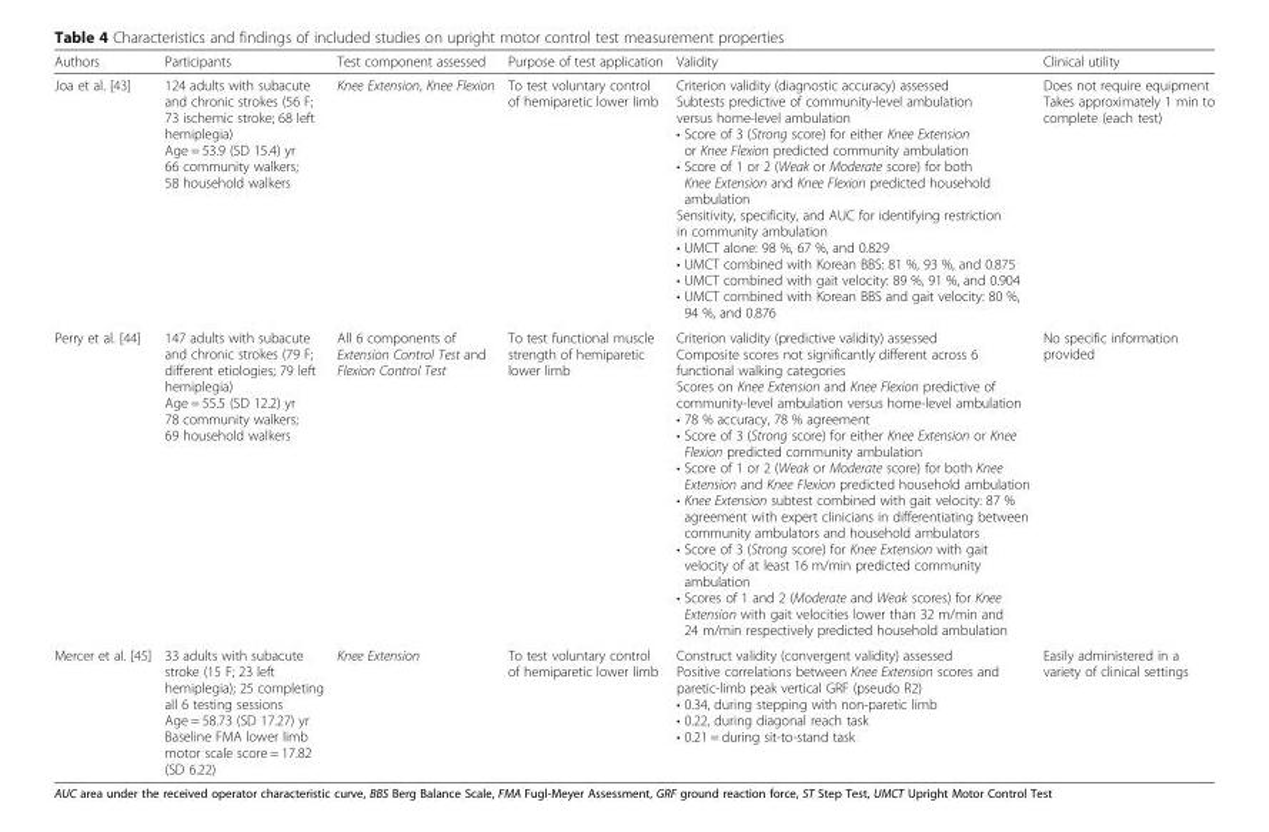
<table><thead><tr><td>Authors</td><td>Participants</td><td>Test component assessed</td><td>Purpose of test application</td><td>Validity</td><td>Clinical utility</td></tr></thead><tbody><tr><td>Joa et al. [43]</td><td>124 adults with subacute and chronic strokes (56 F; 73 ischemic stroke; 68 left hemiplegia) Age = 53.9 (SD 15.4) yr 66 community walkers; 58 household walkers</td><td>Knee Extension, Knee Flexion</td><td>To test voluntary control of hemiparetic lower limb</td><td>Criterion validity (diagnostic accuracy) assessed Subtests predictive of community-level ambulation versus home-level ambulation • Score of 3 (Strong score) for either Knee Extension or Knee Flexion predicted community ambulation • Score of 1 or 2 (Weak or Moderate score) for both Knee Extension and Knee Flexion predicted household ambulation Sensitivity, specificity, and AUC for identifying restriction in community ambulation • UMCT alone: 98 %, 67 %, and 0.829 • UMCT combined with Korean BBS: 81 %, 93 %, and 0.875 • UMCT combined with gait velocity: 89 %, 91 %, and 0.904 • UMCT combined with Korean BBS and gait velocity: 80 %, 94 %, and 0.876</td><td>Does not require equipment Takes approximately 1 min to complete (each test)</td></tr><tr><td>Perry et al. [44]</td><td>147 adults with subacute and chronic strokes (79 F; different etiologies; 79 left hemiplegia) Age = 55.5 (SD 12.2) yr 78 community walkers; 69 household walkers</td><td>All 6 components of Extension Control Test and Flexion Control Test</td><td>To test functional muscle strength of hemiparetic lower limb</td><td>Criterion validity (predictive validity) assessed Composite scores not significantly different across 6 functional walking categories Scores on Knee Extension and Knee Flexion predictive of community-level ambulation versus home-level ambulation • 78 % accuracy, 78 % agreement • Score of 3 (Strong score) for either Knee Extension or Knee Flexion predicted community ambulation • Score of 1 or 2 (Weak or Moderate score) for both Knee Extension and Knee Flexion predicted household ambulation • Knee Extension subtest combined with gait velocity: 87 % agreement with expert clinicians in differentiating between community ambulators and household ambulators • Score of 3 (Strong score) for Knee Extension with gait velocity of at least 16 m/min predicted community ambulation • Scores of 1 and 2 (Moderate and Weak scores) for Knee Extension with gait velocities lower than 32 m/min and 24 m/min respectively predicted household ambulation</td><td>No specific information provided</td></tr><tr><td>Mercer et al. [45]</td><td>33 adults with subacute stroke (15 F; 23 left hemiplegia); 25 completing all 6 testing sessions Age = 58.73 (SD 17.27) yr Baseline FMA lower limb motor scale score = 17.82 (SD 6.22)</td><td>Knee Extension</td><td>To test voluntary control of hemiparetic lower limb</td><td>Construct validity (convergent validity) assessed Positive correlations between Knee Extension scores and paretic-limb peak vertical GRF (pseudo R2) • 0.34, during stepping with non-paretic limb • 0.22, during diagonal reach task • 0.21 = during sit-to-stand task</td><td>Easily administered in a variety of clinical settings</td></tr></tbody></table>